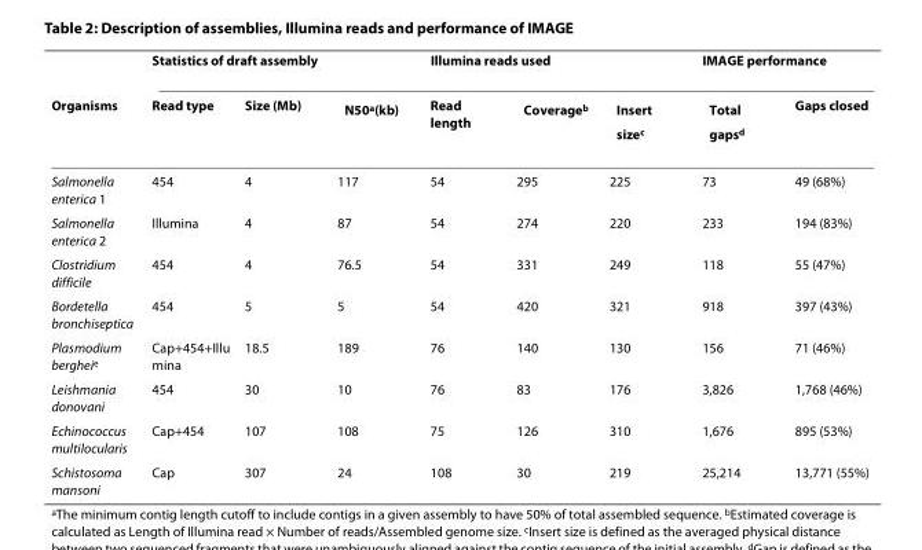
<table><thead><tr><td rowspan="2">Organisms</td><td colspan="3">Statistics of draft assembly</td><td colspan="3">Illumina reads used</td><td colspan="2">IMAGE performance</td></tr><tr><td>Read type</td><td>Size (Mb)</td><td>N50<sup>a</sup>(kb)</td><td>Read length</td><td>Coverage<sup>b</sup></td><td>Insert size<sup>c</sup></td><td>Total gaps<sup>d</sup></td><td>Gaps closed</td></tr></thead><tbody><tr><td>Salmonella enterica 1</td><td>454</td><td>4</td><td>117</td><td>54</td><td>295</td><td>225</td><td>73</td><td>49 (68%)</td></tr><tr><td>Salmonella enterica 2</td><td>Illumina</td><td>4</td><td>87</td><td>54</td><td>274</td><td>220</td><td>233</td><td>194 (83%)</td></tr><tr><td>Clostridium difficile</td><td>454</td><td>4</td><td>76.5</td><td>54</td><td>331</td><td>249</td><td>118</td><td>55 (47%)</td></tr><tr><td>Bordetella bronchiseptica</td><td>454</td><td>5</td><td>5</td><td>54</td><td>420</td><td>321</td><td>918</td><td>397 (43%)</td></tr><tr><td>Plasmodium berghei<sup>e</sup></td><td>Cap+454+Illu mina</td><td>18.5</td><td>189</td><td>76</td><td>140</td><td>130</td><td>156</td><td>71 (46%)</td></tr><tr><td>Leishmania donovani</td><td>454</td><td>30</td><td>10</td><td>76</td><td>83</td><td>176</td><td>3,826</td><td>1,768 (46%)</td></tr><tr><td>Echinococcus multilocularis</td><td>Cap+454</td><td>107</td><td>108</td><td>75</td><td>126</td><td>310</td><td>1,676</td><td>895 (53%)</td></tr><tr><td>Schistosoma mansoni</td><td>Cap</td><td>307</td><td>24</td><td>108</td><td>30</td><td>219</td><td>25,214</td><td>13,771 (55%)</td></tr></tbody></table>